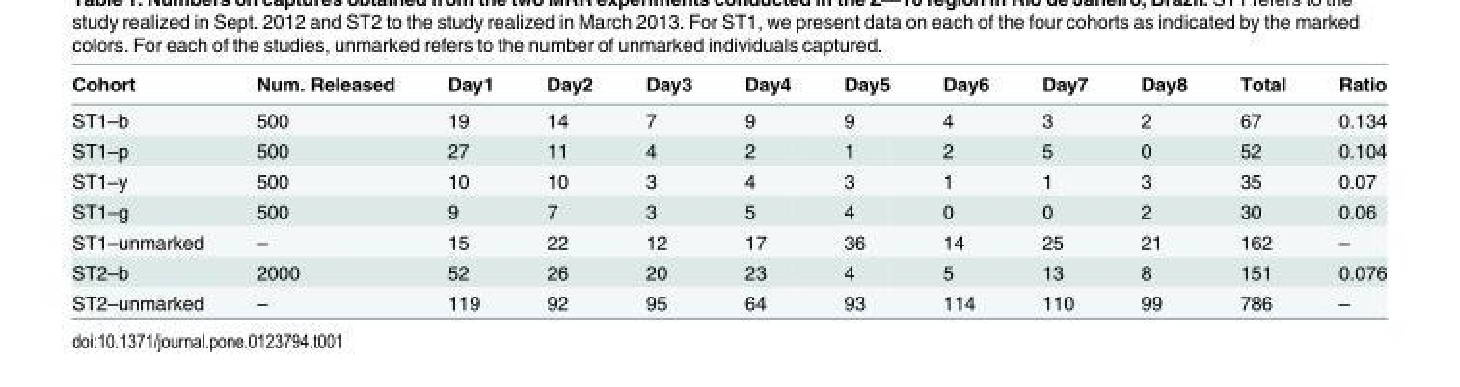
<table><thead><tr><td>Cohort</td><td>Num. Released</td><td>Day1</td><td>Day2</td><td>Day3</td><td>Day4</td><td>Day5</td><td>Day6</td><td>Day7</td><td>Day8</td><td>Total</td><td>Ratio</td></tr></thead><tbody><tr><td>ST1–b</td><td>500</td><td>19</td><td>14</td><td>7</td><td>9</td><td>9</td><td>4</td><td>3</td><td>2</td><td>67</td><td>0.134</td></tr><tr><td>ST1–p</td><td>500</td><td>27</td><td>11</td><td>4</td><td>2</td><td>1</td><td>2</td><td>5</td><td>0</td><td>52</td><td>0.104</td></tr><tr><td>ST1–y</td><td>500</td><td>10</td><td>10</td><td>3</td><td>4</td><td>3</td><td>1</td><td>1</td><td>3</td><td>35</td><td>0.07</td></tr><tr><td>ST1–g</td><td>500</td><td>9</td><td>7</td><td>3</td><td>5</td><td>4</td><td>0</td><td>0</td><td>2</td><td>30</td><td>0.06</td></tr><tr><td>ST1–unmarked</td><td>–</td><td>15</td><td>22</td><td>12</td><td>17</td><td>36</td><td>14</td><td>25</td><td>21</td><td>162</td><td>–</td></tr><tr><td>ST2–b</td><td>2000</td><td>52</td><td>26</td><td>20</td><td>23</td><td>4</td><td>5</td><td>13</td><td>8</td><td>151</td><td>0.076</td></tr><tr><td>ST2–unmarked</td><td>–</td><td>119</td><td>92</td><td>95</td><td>64</td><td>93</td><td>114</td><td>110</td><td>99</td><td>786</td><td>–</td></tr></tbody></table>